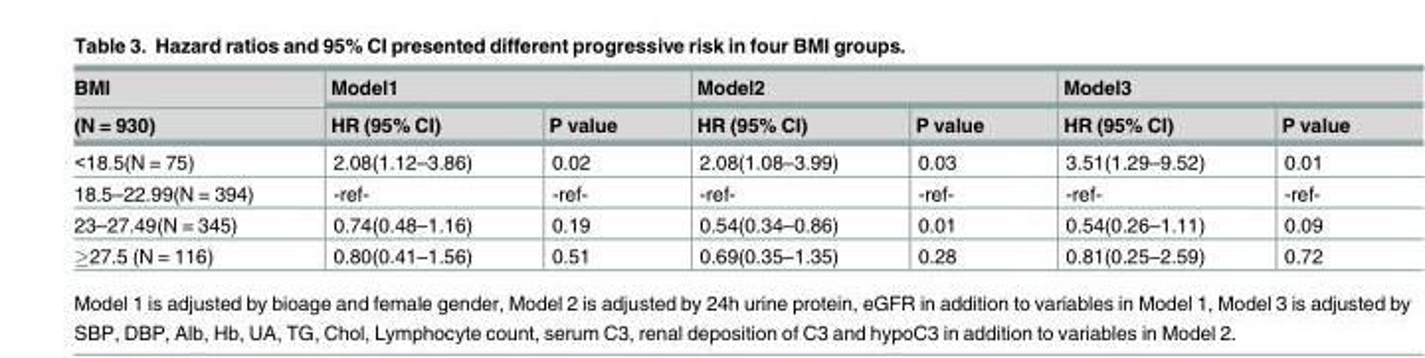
<table><thead><tr><td rowspan="2">BMI (N = 930)</td><td colspan="2">Model1</td><td colspan="2">Model2</td><td colspan="2">Model3</td></tr><tr><td>HR (95% CI)</td><td>P value</td><td>HR (95% CI)</td><td>P value</td><td>HR (95% CI)</td><td>P value</td></tr></thead><tbody><tr><td>&lt;18.5(N = 75)</td><td>2.08(1.12–3.86)</td><td>0.02</td><td>2.08(1.08–3.99)</td><td>0.03</td><td>3.51(1.29–9.52)</td><td>0.01</td></tr><tr><td>18.5–22.99(N = 394)</td><td>-ref-</td><td>-ref-</td><td>-ref-</td><td>-ref-</td><td>-ref-</td><td>-ref-</td></tr><tr><td>23–27.49(N = 345)</td><td>0.74(0.48–1.16)</td><td>0.19</td><td>0.54(0.34–0.86)</td><td>0.01</td><td>0.54(0.26–1.11)</td><td>0.09</td></tr><tr><td>≥27.5 (N = 116)</td><td>0.80(0.41–1.56)</td><td>0.51</td><td>0.69(0.35–1.35)</td><td>0.28</td><td>0.81(0.25–2.59)</td><td>0.72</td></tr></tbody></table>